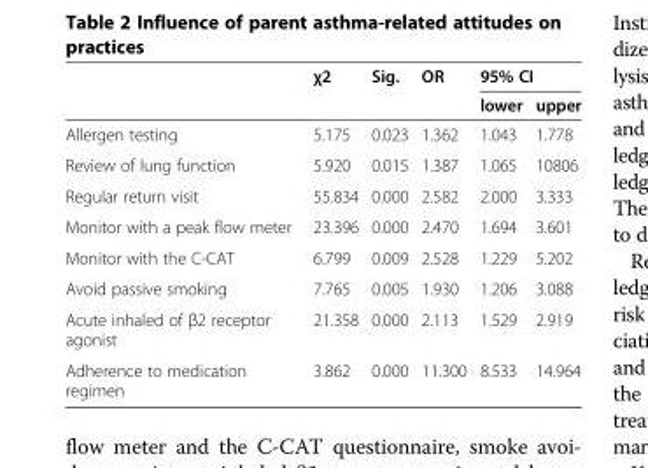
<table><thead><tr><td rowspan="2"></td><td rowspan="2">χ2</td><td rowspan="2">Sig.</td><td rowspan="2">OR</td><td colspan="2">95% CI</td></tr><tr><td>lower</td><td>upper</td></tr></thead><tbody><tr><td>Allergen testing</td><td>5.175</td><td>0.023</td><td>1.362</td><td>1.043</td><td>1.778</td></tr><tr><td>Review of lung function</td><td>5.920</td><td>0.015</td><td>1.387</td><td>1.065</td><td>10806</td></tr><tr><td>Regular return visit</td><td>55.834</td><td>0.000</td><td>2.582</td><td>2.000</td><td>3.333</td></tr><tr><td>Monitor with a peak flow meter</td><td>23.396</td><td>0.000</td><td>2.470</td><td>1.694</td><td>3.601</td></tr><tr><td>Monitor with the C-CAT</td><td>6.799</td><td>0.009</td><td>2.528</td><td>1.229</td><td>5.202</td></tr><tr><td>Avoid passive smoking</td><td>7.765</td><td>0.005</td><td>1.930</td><td>1.206</td><td>3.088</td></tr><tr><td>Acute inhaled of β2 receptor agonist</td><td>21.358</td><td>0.000</td><td>2.113</td><td>1.529</td><td>2.919</td></tr><tr><td>Adherence to medication regimen</td><td>3.862</td><td>0.000</td><td>11.300</td><td>8.533</td><td>14.964</td></tr></tbody></table>